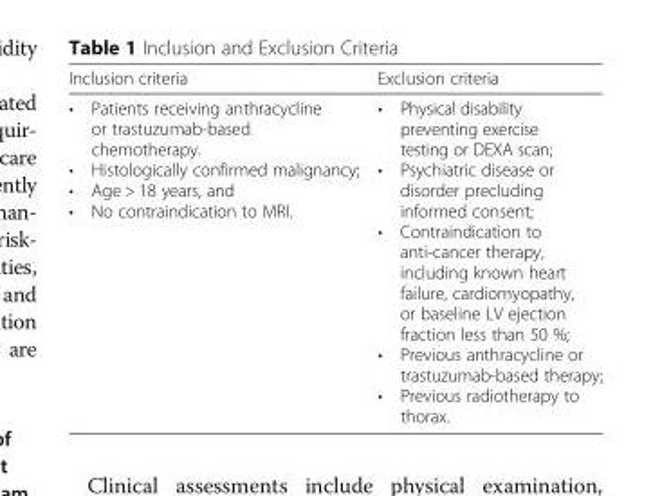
<table><thead><tr><td>Inclusion criteria</td><td>Exclusion criteria</td></tr></thead><tbody><tr><td>• Patients receiving anthracycline or trastuzumab-based chemotherapy. • Histologically confirmed malignancy; • Age &gt; 18 years, and • No contraindication to MRI.</td><td>• Physical disability preventing exercise testing or DEXA scan; • Psychiatric disease or disorder precluding informed consent; • Contraindication to anti-cancer therapy, including known heart failure, cardiomyopathy, or baseline LV ejection fraction less than 50 %; • Previous anthracycline or trastuzumab-based therapy; • Previous radiotherapy to thorax.</td></tr></tbody></table>